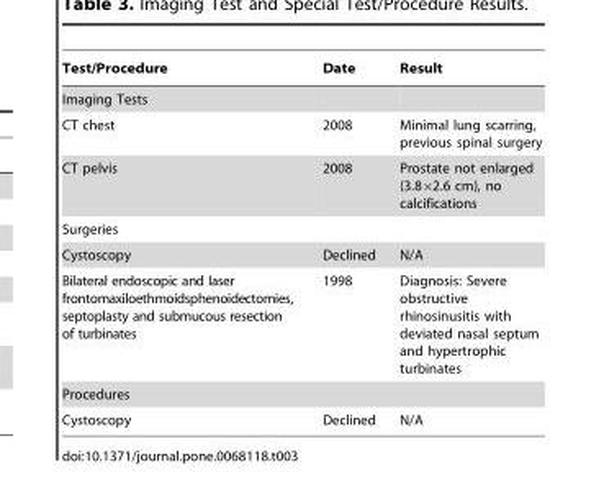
<table><thead><tr><td>Test/Procedure</td><td>Date</td><td>Result</td></tr></thead><tbody><tr><td colspan="3">Imaging Tests</td></tr><tr><td>CT chest</td><td>2008</td><td>Minimal lung scarring, previous spinal surgery</td></tr><tr><td>CT pelvis</td><td>2008</td><td>Prostate not enlarged (3.8×2.6 cm), no calcifications</td></tr><tr><td colspan="3">Surgeries</td></tr><tr><td>Cystoscopy</td><td>Declined</td><td>N/A</td></tr><tr><td>Bilateral endoscopic and laser frontomaxiloethmoidsphenoidectomies, septoplasty and submucous resection of turbinates</td><td>1998</td><td>Diagnosis: Severe obstructive rhinosinusitis with deviated nasal septum and hypertrophic turbinates</td></tr><tr><td colspan="3">Procedures</td></tr><tr><td>Cystoscopy</td><td>Declined</td><td>N/A</td></tr></tbody></table>